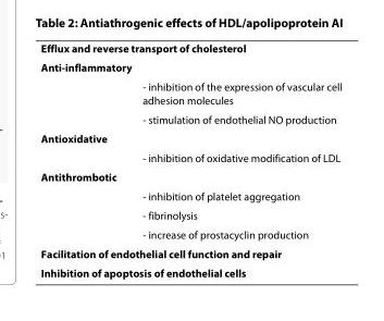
<table><tbody><tr><td colspan="2">Efflux and reverse transport of cholesterol</td></tr><tr><td colspan="2">Anti-inflammatory</td></tr><tr><td></td><td>- inhibition of the expression of vascular cell adhesion molecules</td></tr><tr><td></td><td>- stimulation of endothelial NO production</td></tr><tr><td colspan="2">Antioxidative</td></tr><tr><td></td><td>- inhibition of oxidative modification of LDL</td></tr><tr><td colspan="2">Antithrombotic</td></tr><tr><td></td><td>- inhibition of platelet aggregation</td></tr><tr><td></td><td>- fibrinolysis</td></tr><tr><td></td><td>- increase of prostacyclin production</td></tr><tr><td colspan="2">Facilitation of endothelial cell function and repair</td></tr><tr><td colspan="2">Inhibition of apoptosis of endothelial cells</td></tr></tbody></table>